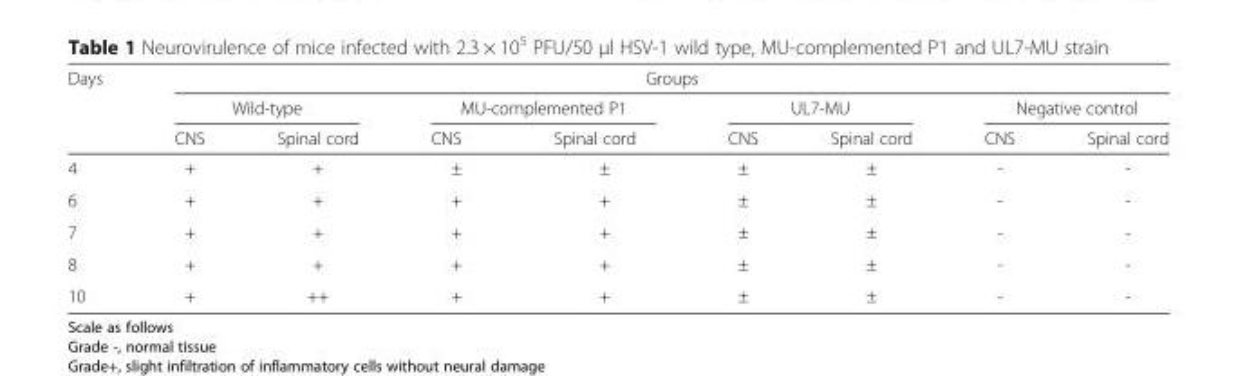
<table><thead><tr><td rowspan="3">Days</td><td colspan="8">Groups</td></tr><tr><td colspan="2">Wild-type</td><td colspan="2">MU-complemented P1</td><td colspan="2">UL7-MU</td><td colspan="2">Negative control</td></tr><tr><td>CNS</td><td>Spinal cord</td><td>CNS</td><td>Spinal cord</td><td>CNS</td><td>Spinal cord</td><td>CNS</td><td>Spinal cord</td></tr></thead><tbody><tr><td>4</td><td>+</td><td>+</td><td>±</td><td>±</td><td>±</td><td>±</td><td>-</td><td>-</td></tr><tr><td>6</td><td>+</td><td>+</td><td>+</td><td>+</td><td>±</td><td>±</td><td>-</td><td>-</td></tr><tr><td>7</td><td>+</td><td>+</td><td>+</td><td>+</td><td>±</td><td>±</td><td>-</td><td>-</td></tr><tr><td>8</td><td>+</td><td>+</td><td>+</td><td>+</td><td>±</td><td>±</td><td>-</td><td>-</td></tr><tr><td>10</td><td>+</td><td>++</td><td>+</td><td>+</td><td>±</td><td>±</td><td>-</td><td>-</td></tr></tbody></table>